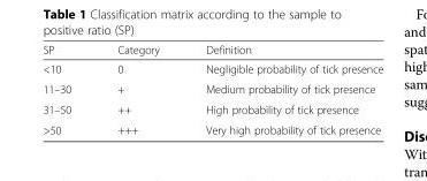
<table><thead><tr><td>SP</td><td>Category</td><td>Definition</td></tr></thead><tbody><tr><td>&lt;10</td><td>0</td><td>Negligible probability of tick presence</td></tr><tr><td>11–30</td><td>+</td><td>Medium probability of tick presence</td></tr><tr><td>31–50</td><td>++</td><td>High probability of tick presence</td></tr><tr><td>&gt;50</td><td>+++</td><td>Very high probability of tick presence</td></tr></tbody></table>